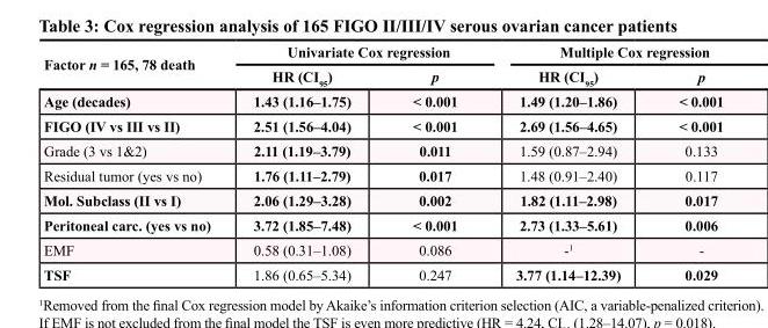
<table><thead><tr><td rowspan="2">Factor n = 165, 78 death</td><td colspan="2">Univariate Cox regression</td><td colspan="2">Multiple Cox regression</td></tr><tr><td>HR (CI<sub>95</sub>)</td><td>p</td><td>HR (CI<sub>95</sub>)</td><td>p</td></tr></thead><tbody><tr><td>Age (decades)</td><td>1.43 (1.16–1.75)</td><td>&lt; 0.001</td><td>1.49 (1.20–1.86)</td><td>&lt; 0.001</td></tr><tr><td>FIGO (IV vs III vs II)</td><td>2.51 (1.56–4.04)</td><td>&lt; 0.001</td><td>2.69 (1.56–4.65)</td><td>&lt; 0.001</td></tr><tr><td>Grade (3 vs 1&amp;2)</td><td>2.11 (1.19–3.79)</td><td>0.011</td><td>1.59 (0.87–2.94)</td><td>0.133</td></tr><tr><td>Residual tumor (yes vs no)</td><td>1.76 (1.11–2.79)</td><td>0.017</td><td>1.48 (0.91–2.40)</td><td>0.117</td></tr><tr><td>Mol. Subclass (II vs I)</td><td>2.06 (1.29–3.28)</td><td>0.002</td><td>1.82 (1.11–2.98)</td><td>0.017</td></tr><tr><td>Peritoneal carc. (yes vs no)</td><td>3.72 (1.85–7.48)</td><td>&lt; 0.001</td><td>2.73 (1.33–5.61)</td><td>0.006</td></tr><tr><td>EMF</td><td>0.58 (0.31–1.08)</td><td>0.086</td><td>-<sup>1</sup></td><td>-</td></tr><tr><td>TSF</td><td>1.86 (0.65–5.34)</td><td>0.247</td><td>3.77 (1.14–12.39)</td><td>0.029</td></tr></tbody></table>